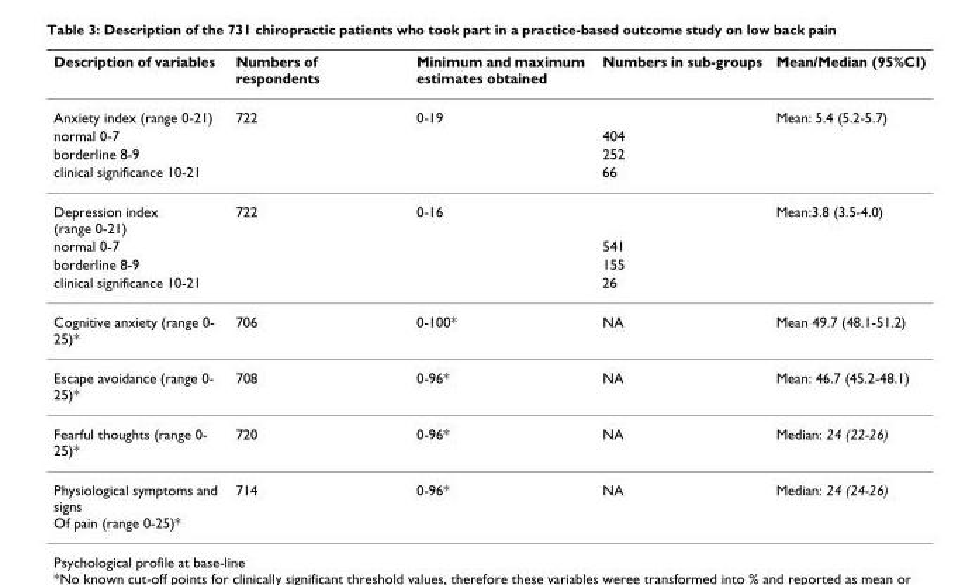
<table><thead><tr><td>Description of variables</td><td>Numbers of respondents</td><td>Minimum and maximum estimates obtained</td><td>Numbers in sub-groups</td><td>Mean/Median (95%CI)</td></tr></thead><tbody><tr><td>Anxiety index (range 0-21)</td><td>722</td><td>0-19</td><td></td><td>Mean: 5.4 (5.2-5.7)</td></tr><tr><td>normal 0-7</td><td></td><td></td><td>404</td><td></td></tr><tr><td>borderline 8-9</td><td></td><td></td><td>252</td><td></td></tr><tr><td>clinical significance 10-21</td><td></td><td></td><td>66</td><td></td></tr><tr><td>Depression index (range 0-21)</td><td>722</td><td>0-16</td><td></td><td>Mean:3.8 (3.5-4.0)</td></tr><tr><td>normal 0-7</td><td></td><td></td><td>541</td><td></td></tr><tr><td>borderline 8-9</td><td></td><td></td><td>155</td><td></td></tr><tr><td>clinical significance 10-21</td><td></td><td></td><td>26</td><td></td></tr><tr><td>Cognitive anxiety (range 0- 25)*</td><td>706</td><td>0-100*</td><td>NA</td><td>Mean 49.7 (48.1-51.2)</td></tr><tr><td>Escape avoidance (range 0- 25)*</td><td>708</td><td>0-96*</td><td>NA</td><td>Mean: 46.7 (45.2-48.1)</td></tr><tr><td>Fearful thoughts (range 0- 25)*</td><td>720</td><td>0-96*</td><td>NA</td><td>Median: 24 (22-26)</td></tr><tr><td>Physiological symptoms and signs Of pain (range 0-25)*</td><td>714</td><td>0-96*</td><td>NA</td><td>Median: 24 (24-26)</td></tr></tbody></table>